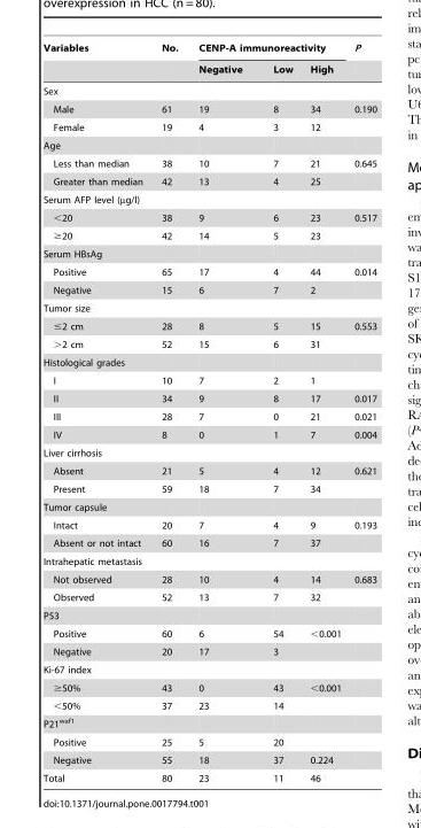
<table><thead><tr><td rowspan="2">Variables</td><td rowspan="2">No.</td><td colspan="3">CENP-A immunoreactivity</td><td rowspan="2">P</td></tr><tr><td>Negative</td><td>Low</td><td>High</td></tr></thead><tbody><tr><td colspan="6">Sex</td></tr><tr><td>Male</td><td>61</td><td>19</td><td>8</td><td>34</td><td>0.190</td></tr><tr><td>Female</td><td>19</td><td>4</td><td>3</td><td>12</td><td></td></tr><tr><td colspan="6">Age</td></tr><tr><td>Less than median</td><td>38</td><td>10</td><td>7</td><td>21</td><td>0.645</td></tr><tr><td>Greater than median</td><td>42</td><td>13</td><td>4</td><td>25</td><td></td></tr><tr><td colspan="6">Serum AFP level (µg/l)</td></tr><tr><td>&lt;20</td><td>38</td><td>9</td><td>6</td><td>23</td><td>0.517</td></tr><tr><td>≥20</td><td>42</td><td>14</td><td>5</td><td>23</td><td></td></tr><tr><td colspan="6">Serum HBsAg</td></tr><tr><td>Positive</td><td>65</td><td>17</td><td>4</td><td>44</td><td>0.014</td></tr><tr><td>Negative</td><td>15</td><td>6</td><td>7</td><td>2</td><td></td></tr><tr><td colspan="6">Tumor size</td></tr><tr><td>≤2 cm</td><td>28</td><td>8</td><td>5</td><td>15</td><td>0.553</td></tr><tr><td>&gt;2 cm</td><td>52</td><td>15</td><td>6</td><td>31</td><td></td></tr><tr><td colspan="6">Histological grades</td></tr><tr><td>I</td><td>10</td><td>7</td><td>2</td><td>1</td><td></td></tr><tr><td>II</td><td>34</td><td>9</td><td>8</td><td>17</td><td>0.017</td></tr><tr><td>III</td><td>28</td><td>7</td><td>0</td><td>21</td><td>0.021</td></tr><tr><td>IV</td><td>8</td><td>0</td><td>1</td><td>7</td><td>0.004</td></tr><tr><td colspan="6">Liver cirrhosis</td></tr><tr><td>Absent</td><td>21</td><td>5</td><td>4</td><td>12</td><td>0.621</td></tr><tr><td>Present</td><td>59</td><td>18</td><td>7</td><td>34</td><td></td></tr><tr><td colspan="6">Tumor capsule</td></tr><tr><td>Intact</td><td>20</td><td>7</td><td>4</td><td>9</td><td>0.193</td></tr><tr><td>Absent or not intact</td><td>60</td><td>16</td><td>7</td><td>37</td><td></td></tr><tr><td colspan="6">Intrahepatic metastasis</td></tr><tr><td>Not observed</td><td>28</td><td>10</td><td>4</td><td>14</td><td>0.683</td></tr><tr><td>Observed</td><td>52</td><td>13</td><td>7</td><td>32</td><td></td></tr><tr><td colspan="6">P53</td></tr><tr><td>Positive</td><td>60</td><td>6</td><td>54</td><td>&lt;0.001</td><td></td></tr><tr><td>Negative</td><td>20</td><td>17</td><td>3</td><td></td><td></td></tr><tr><td colspan="6">Ki-67 index</td></tr><tr><td>≥50%</td><td>43</td><td>0</td><td>43</td><td>&lt;0.001</td><td></td></tr><tr><td>&lt;50%</td><td>37</td><td>23</td><td>14</td><td></td><td></td></tr><tr><td colspan="6">P21<sup>waf1</sup></td></tr><tr><td>Positive</td><td>25</td><td>5</td><td>20</td><td></td><td></td></tr><tr><td>Negative</td><td>55</td><td>18</td><td>37</td><td>0.224</td><td></td></tr><tr><td>Total</td><td>80</td><td>23</td><td>11</td><td>46</td><td></td></tr></tbody></table>